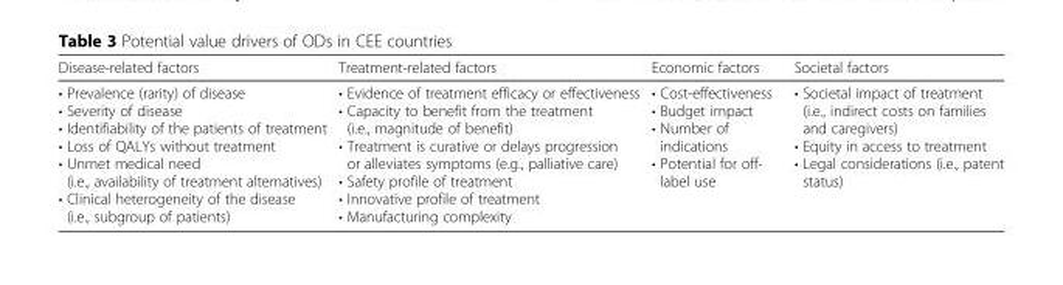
<table><thead><tr><td>Disease-related factors</td><td>Treatment-related factors</td><td>Economic factors</td><td>Societal factors</td></tr></thead><tbody><tr><td>• Prevalence (rarity) of disease • Severity of disease • Identifiability of the patients of treatment • Loss of QALYs without treatment • Unmet medical need (i.e., availability of treatment alternatives) • Clinical heterogeneity of the disease (i.e., subgroup of patients)</td><td>• Evidence of treatment efficacy or effectiveness • Capacity to benefit from the treatment (i.e., magnitude of benefit) • Treatment is curative or delays progression or alleviates symptoms (e.g., palliative care) • Safety profile of treatment • Innovative profile of treatment • Manufacturing complexity</td><td>• Cost-effectiveness • Budget impact • Number of indications • Potential for off- label use</td><td>• Societal impact of treatment (i.e., indirect costs on families and caregivers) • Equity in access to treatment • Legal considerations (i.e., patent status)</td></tr></tbody></table>